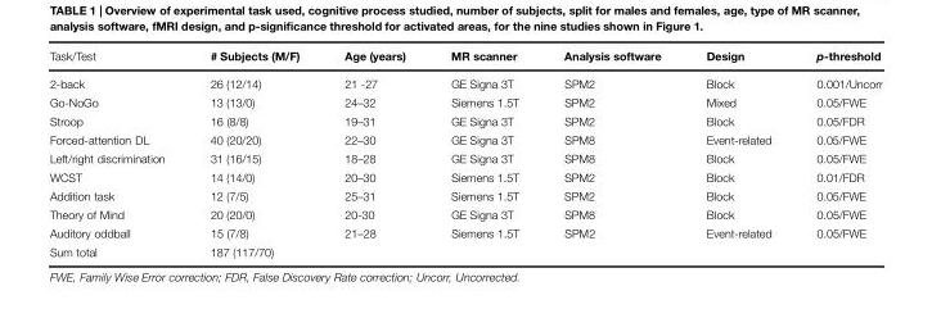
<table><thead><tr><td>Task/Test</td><td># Subjects (M/F)</td><td>Age (years)</td><td>MR scanner</td><td>Analysis software</td><td>Design</td><td>p-threshold</td></tr></thead><tbody><tr><td>2-back</td><td>26 (12/14)</td><td>21 -27</td><td>GE Signa 3T</td><td>SPM2</td><td>Block</td><td>0.001/Uncorr</td></tr><tr><td>Go-NoGo</td><td>13 (13/0)</td><td>24–32</td><td>Siemens 1.5T</td><td>SPM2</td><td>Mixed</td><td>0.05/FWE</td></tr><tr><td>Stroop</td><td>16 (8/8)</td><td>19–31</td><td>GE Signa 3T</td><td>SPM2</td><td>Block</td><td>0.05/FDR</td></tr><tr><td>Forced-attention DL</td><td>40 (20/20)</td><td>22–30</td><td>GE Signa 3T</td><td>SPM8</td><td>Event-related</td><td>0.05/FWE</td></tr><tr><td>Left/right discrimination</td><td>31 (16/15)</td><td>18–28</td><td>GE Signa 3T</td><td>SPM8</td><td>Block</td><td>0.05/FWE</td></tr><tr><td>WCST</td><td>14 (14/0)</td><td>20–30</td><td>Siemens 1.5T</td><td>SPM2</td><td>Block</td><td>0.01/FDR</td></tr><tr><td>Addition task</td><td>12 (7/5)</td><td>25–31</td><td>Siemens 1.5T</td><td>SPM2</td><td>Block</td><td>0.05/FWE</td></tr><tr><td>Theory of Mind</td><td>20 (20/0)</td><td>20-30</td><td>GE Signa 3T</td><td>SPM8</td><td>Block</td><td>0.05/FWE</td></tr><tr><td>Auditory oddball</td><td>15 (7/8)</td><td>21–28</td><td>Siemens 1.5T</td><td>SPM2</td><td>Event-related</td><td>0.05/FWE</td></tr><tr><td>Sum total</td><td>187 (117/70)</td><td></td><td></td><td></td><td></td><td></td></tr></tbody></table>